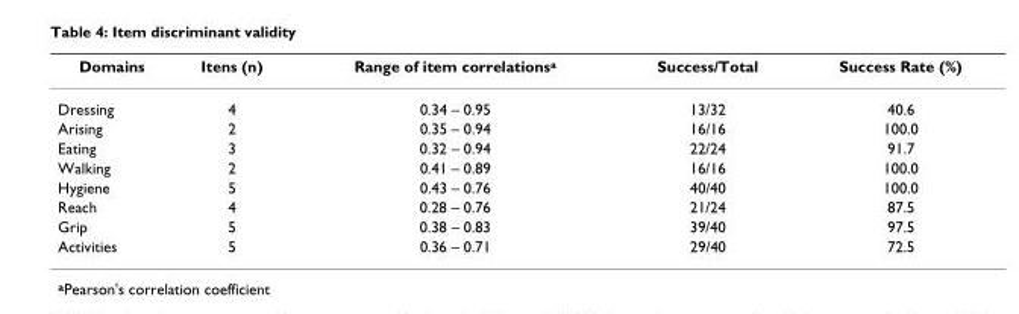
<table><thead><tr><td>Domains</td><td>Itens (n)</td><td>Range of item correlations<sup>a</sup></td><td>Success/Total</td><td>Success Rate (%)</td></tr></thead><tbody><tr><td>Dressing</td><td>4</td><td>0.34 – 0.95</td><td>13/32</td><td>40.6</td></tr><tr><td>Arising</td><td>2</td><td>0.35 – 0.94</td><td>16/16</td><td>100.0</td></tr><tr><td>Eating</td><td>3</td><td>0.32 – 0.94</td><td>22/24</td><td>91.7</td></tr><tr><td>Walking</td><td>2</td><td>0.41 – 0.89</td><td>16/16</td><td>100.0</td></tr><tr><td>Hygiene</td><td>5</td><td>0.43 – 0.76</td><td>40/40</td><td>100.0</td></tr><tr><td>Reach</td><td>4</td><td>0.28 – 0.76</td><td>21/24</td><td>87.5</td></tr><tr><td>Grip</td><td>5</td><td>0.38 – 0.83</td><td>39/40</td><td>97.5</td></tr><tr><td>Activities</td><td>5</td><td>0.36 – 0.71</td><td>29/40</td><td>72.5</td></tr></tbody></table>